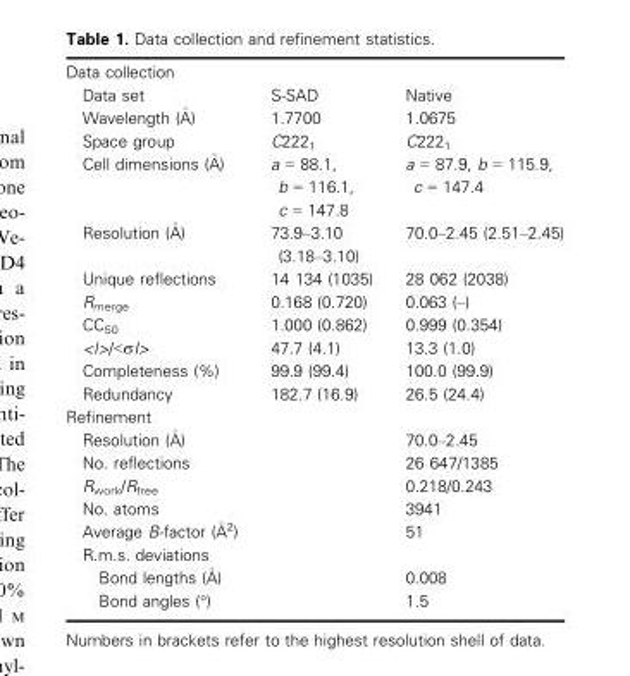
<table><tbody><tr><td colspan="3">Data collection</td></tr><tr><td>Data set</td><td>S-SAD</td><td>Native</td></tr><tr><td>Wavelength (�A)</td><td>1.7700</td><td>1.0675</td></tr><tr><td>Space group</td><td>C222<sub>1</sub></td><td>C222<sub>1</sub></td></tr><tr><td>Cell dimensions (�A)</td><td>a = 88.1, b = 116.1, c = 147.8</td><td>a = 87.9, b = 115.9, c = 147.4</td></tr><tr><td>Resolution (�A)</td><td>73.9–3.10 (3.18–3.10)</td><td>70.0–2.45 (2.51–2.45)</td></tr><tr><td>Unique reflections</td><td>14 134 (1035)</td><td>28 062 (2038)</td></tr><tr><td>R<sub>merge</sub></td><td>0.168 (0.720)</td><td>0.063 (–)</td></tr><tr><td>CC<sub>50</sub></td><td>1.000 (0.862)</td><td>0.999 (0.354)</td></tr><tr><td>&lt;I&gt;/&lt;σI&gt;</td><td>47.7 (4.1)</td><td>13.3 (1.0)</td></tr><tr><td>Completeness (%)</td><td>99.9 (99.4)</td><td>100.0 (99.9)</td></tr><tr><td>Redundancy</td><td>182.7 (16.9)</td><td>26.5 (24.4)</td></tr><tr><td colspan="3">Refinement</td></tr><tr><td>Resolution (�A)</td><td></td><td>70.0–2.45</td></tr><tr><td>No. reflections</td><td></td><td>26 647/1385</td></tr><tr><td>R<sub>work</sub>/R<sub>free</sub></td><td></td><td>0.218/0.243</td></tr><tr><td>No. atoms</td><td></td><td>3941</td></tr><tr><td>Average B-factor (�A2)</td><td></td><td>51</td></tr><tr><td colspan="3">R.m.s. deviations</td></tr><tr><td>Bond lengths (�A)</td><td></td><td>0.008</td></tr><tr><td>Bond angles (°)</td><td></td><td>1.5</td></tr></tbody></table>